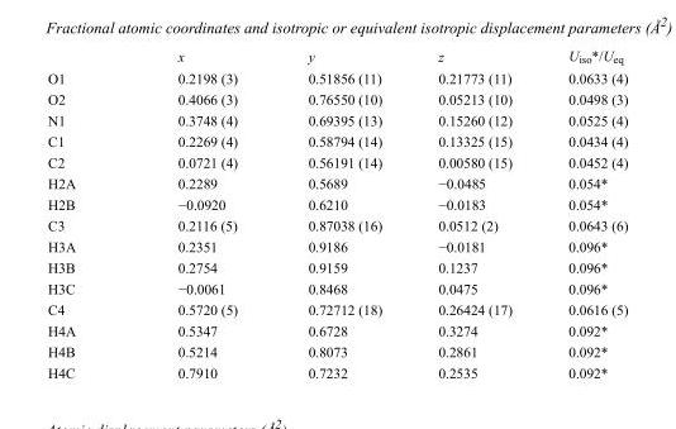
<table><thead><tr><td></td><td>x</td><td>y</td><td>z</td><td>U<sub>iso</sub>*/U<sub>eq</sub></td></tr></thead><tbody><tr><td>O1</td><td>0.2198 (3)</td><td>0.51856 (11)</td><td>0.21773 (11)</td><td>0.0633 (4)</td></tr><tr><td>O2</td><td>0.4066 (3)</td><td>0.76550 (10)</td><td>0.05213 (10)</td><td>0.0498 (3)</td></tr><tr><td>N1</td><td>0.3748 (4)</td><td>0.69395 (13)</td><td>0.15260 (12)</td><td>0.0525 (4)</td></tr><tr><td>C1</td><td>0.2269 (4)</td><td>0.58794 (14)</td><td>0.13325 (15)</td><td>0.0434 (4)</td></tr><tr><td>C2</td><td>0.0721 (4)</td><td>0.56191 (14)</td><td>0.00580 (15)</td><td>0.0452 (4)</td></tr><tr><td>H2A</td><td>0.2289</td><td>0.5689</td><td>−0.0485</td><td>0.054*</td></tr><tr><td>H2B</td><td>−0.0920</td><td>0.6210</td><td>−0.0183</td><td>0.054*</td></tr><tr><td>C3</td><td>0.2116 (5)</td><td>0.87038 (16)</td><td>0.0512 (2)</td><td>0.0643 (6)</td></tr><tr><td>H3A</td><td>0.2351</td><td>0.9186</td><td>−0.0181</td><td>0.096*</td></tr><tr><td>H3B</td><td>0.2754</td><td>0.9159</td><td>0.1237</td><td>0.096*</td></tr><tr><td>H3C</td><td>−0.0061</td><td>0.8468</td><td>0.0475</td><td>0.096*</td></tr><tr><td>C4</td><td>0.5720 (5)</td><td>0.72712 (18)</td><td>0.26424 (17)</td><td>0.0616 (5)</td></tr><tr><td>H4A</td><td>0.5347</td><td>0.6728</td><td>0.3274</td><td>0.092*</td></tr><tr><td>H4B</td><td>0.5214</td><td>0.8073</td><td>0.2861</td><td>0.092*</td></tr><tr><td>H4C</td><td>0.7910</td><td>0.7232</td><td>0.2535</td><td>0.092*</td></tr></tbody></table>